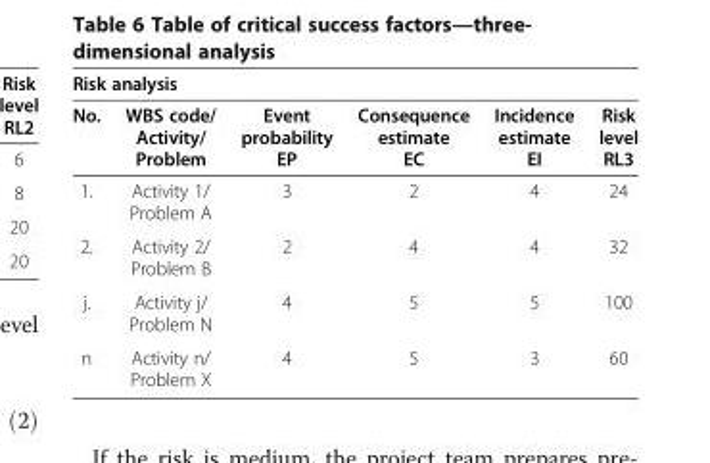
<table><thead><tr><td colspan="6">Risk analysis</td></tr><tr><td>No.</td><td>WBS code/ Activity/ Problem</td><td>Event probability EP</td><td>Consequence estimate EC</td><td>Incidence estimate EI</td><td>Risk level RL3</td></tr></thead><tbody><tr><td>1.</td><td>Activity 1/ Problem A</td><td>3</td><td>2</td><td>4</td><td>24</td></tr><tr><td>2.</td><td>Activity 2/ Problem B</td><td>2</td><td>4</td><td>4</td><td>32</td></tr><tr><td>j.</td><td>Activity j/ Problem N</td><td>4</td><td>5</td><td>5</td><td>100</td></tr><tr><td>n</td><td>Activity n/ Problem X</td><td>4</td><td>5</td><td>3</td><td>60</td></tr></tbody></table>